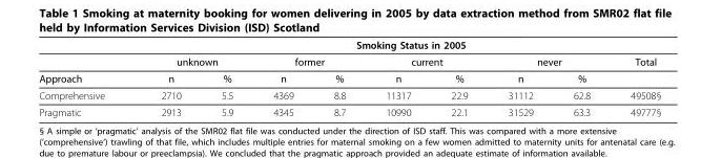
<table><thead><tr><td rowspan="3">Approach</td><td colspan="9">Smoking Status in 2005</td></tr><tr><td colspan="2">unknown</td><td colspan="2">former</td><td colspan="2">current</td><td colspan="2">never</td><td rowspan="2">Total</td></tr><tr><td>n</td><td>%</td><td>n</td><td>%</td><td>n</td><td>%</td><td>n</td><td>%</td></tr></thead><tbody><tr><td>Comprehensive</td><td>2710</td><td>5.5</td><td>4369</td><td>8.8</td><td>11317</td><td>22.9</td><td>31112</td><td>62.8</td><td>49508§</td></tr><tr><td>Pragmatic</td><td>2913</td><td>5.9</td><td>4345</td><td>8.7</td><td>10990</td><td>22.1</td><td>31529</td><td>63.3</td><td>49777§</td></tr></tbody></table>